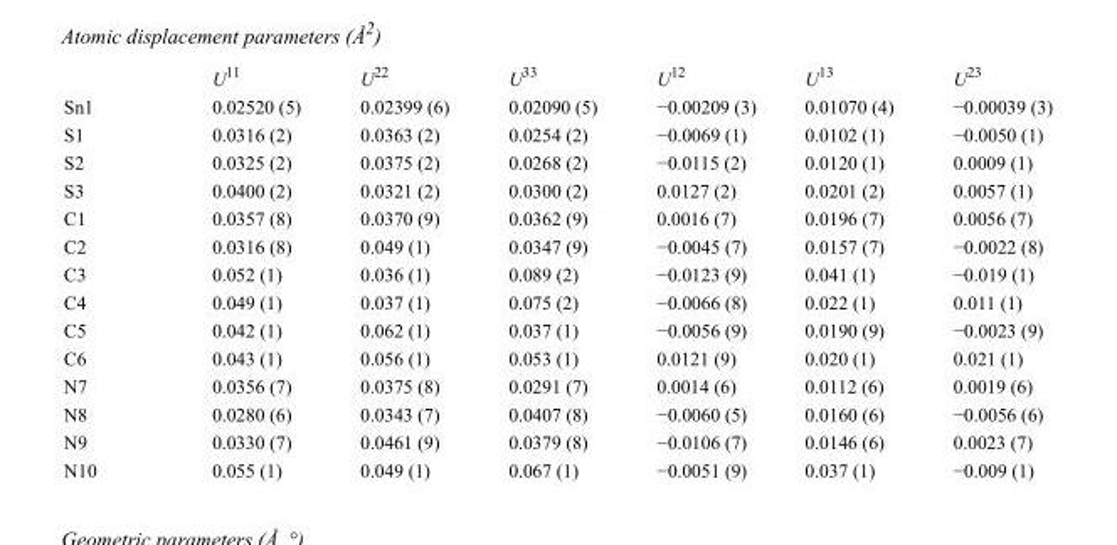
<table><thead><tr><td></td><td>U<sup>11</sup></td><td>U<sup>22</sup></td><td>U<sup>33</sup></td><td>U<sup>12</sup></td><td>U<sup>13</sup></td><td>U<sup>23</sup></td></tr></thead><tbody><tr><td>Sn1</td><td>0.02520 (5)</td><td>0.02399 (6)</td><td>0.02090 (5)</td><td>−0.00209 (3)</td><td>0.01070 (4)</td><td>−0.00039 (3)</td></tr><tr><td>S1</td><td>0.0316 (2)</td><td>0.0363 (2)</td><td>0.0254 (2)</td><td>−0.0069 (1)</td><td>0.0102 (1)</td><td>−0.0050 (1)</td></tr><tr><td>S2</td><td>0.0325 (2)</td><td>0.0375 (2)</td><td>0.0268 (2)</td><td>−0.0115 (2)</td><td>0.0120 (1)</td><td>0.0009 (1)</td></tr><tr><td>S3</td><td>0.0400 (2)</td><td>0.0321 (2)</td><td>0.0300 (2)</td><td>0.0127 (2)</td><td>0.0201 (2)</td><td>0.0057 (1)</td></tr><tr><td>C1</td><td>0.0357 (8)</td><td>0.0370 (9)</td><td>0.0362 (9)</td><td>0.0016 (7)</td><td>0.0196 (7)</td><td>0.0056 (7)</td></tr><tr><td>C2</td><td>0.0316 (8)</td><td>0.049 (1)</td><td>0.0347 (9)</td><td>−0.0045 (7)</td><td>0.0157 (7)</td><td>−0.0022 (8)</td></tr><tr><td>C3</td><td>0.052 (1)</td><td>0.036 (1)</td><td>0.089 (2)</td><td>−0.0123 (9)</td><td>0.041 (1)</td><td>−0.019 (1)</td></tr><tr><td>C4</td><td>0.049 (1)</td><td>0.037 (1)</td><td>0.075 (2)</td><td>−0.0066 (8)</td><td>0.022 (1)</td><td>0.011 (1)</td></tr><tr><td>C5</td><td>0.042 (1)</td><td>0.062 (1)</td><td>0.037 (1)</td><td>−0.0056 (9)</td><td>0.0190 (9)</td><td>−0.0023 (9)</td></tr><tr><td>C6</td><td>0.043 (1)</td><td>0.056 (1)</td><td>0.053 (1)</td><td>0.0121 (9)</td><td>0.020 (1)</td><td>0.021 (1)</td></tr><tr><td>N7</td><td>0.0356 (7)</td><td>0.0375 (8)</td><td>0.0291 (7)</td><td>0.0014 (6)</td><td>0.0112 (6)</td><td>0.0019 (6)</td></tr><tr><td>N8</td><td>0.0280 (6)</td><td>0.0343 (7)</td><td>0.0407 (8)</td><td>−0.0060 (5)</td><td>0.0160 (6)</td><td>−0.0056 (6)</td></tr><tr><td>N9</td><td>0.0330 (7)</td><td>0.0461 (9)</td><td>0.0379 (8)</td><td>−0.0106 (7)</td><td>0.0146 (6)</td><td>0.0023 (7)</td></tr><tr><td>N10</td><td>0.055 (1)</td><td>0.049 (1)</td><td>0.067 (1)</td><td>−0.0051 (9)</td><td>0.037 (1)</td><td>−0.009 (1)</td></tr></tbody></table>